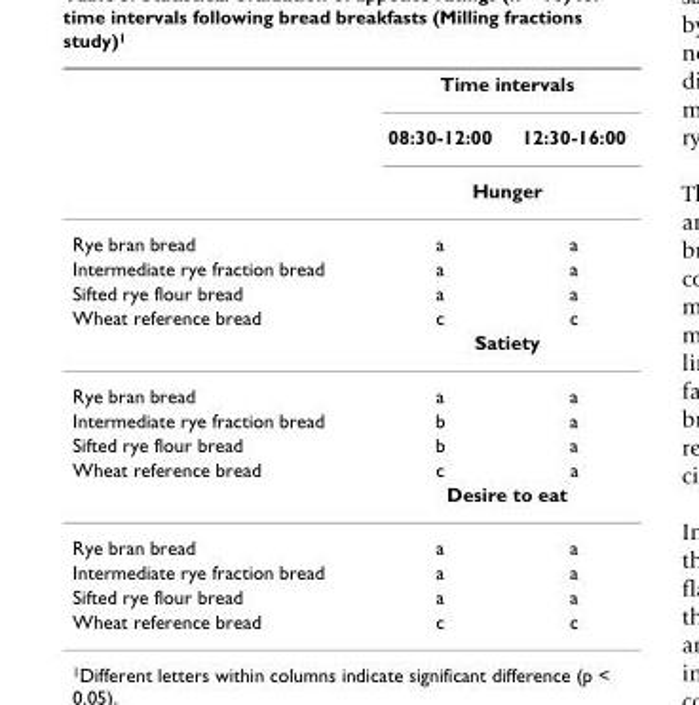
<table><thead><tr><td rowspan="3"></td><td colspan="2">Time intervals</td></tr><tr><td>08:30-12:00</td><td>12:30-16:00</td></tr><tr><td colspan="2">Hunger</td></tr></thead><tbody><tr><td>Rye bran bread</td><td>a</td><td>a</td></tr><tr><td>Intermediate rye fraction bread</td><td>a</td><td>a</td></tr><tr><td>Sifted rye flour bread</td><td>a</td><td>a</td></tr><tr><td rowspan="2">Wheat reference bread</td><td>c</td><td>c</td></tr><tr><td colspan="2">Satiety</td></tr><tr><td>Rye bran bread</td><td>a</td><td>a</td></tr><tr><td>Intermediate rye fraction bread</td><td>b</td><td>a</td></tr><tr><td>Sifted rye flour bread</td><td>b</td><td>a</td></tr><tr><td rowspan="2">Wheat reference bread</td><td>c</td><td>a</td></tr><tr><td colspan="2">Desire to eat</td></tr><tr><td>Rye bran bread</td><td>a</td><td>a</td></tr><tr><td>Intermediate rye fraction bread</td><td>a</td><td>a</td></tr><tr><td>Sifted rye flour bread</td><td>a</td><td>a</td></tr><tr><td>Wheat reference bread</td><td>c</td><td>c</td></tr></tbody></table>